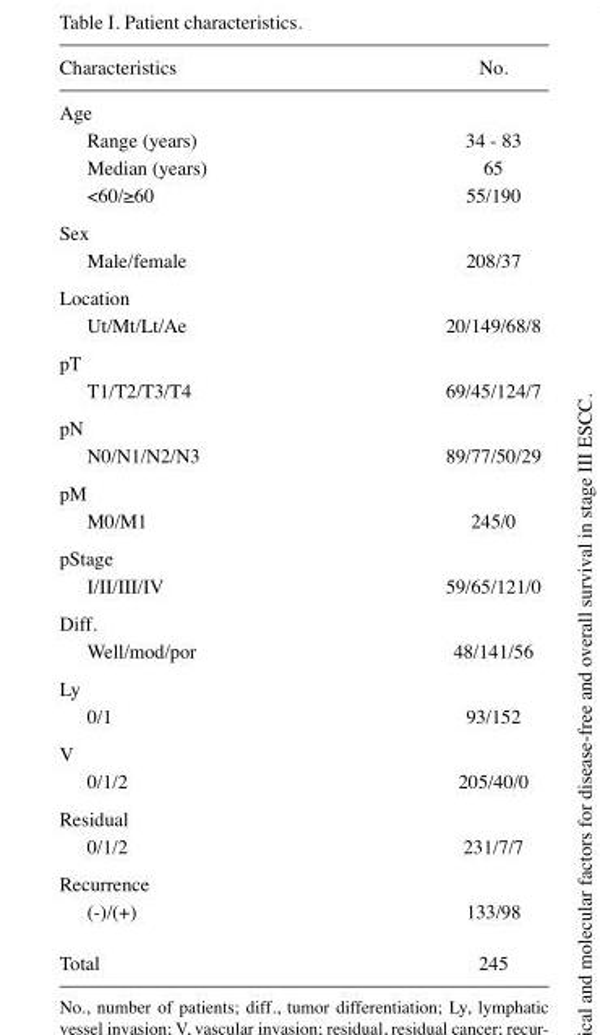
<table><thead><tr><td>Characteristics</td><td>No.</td></tr></thead><tbody><tr><td colspan="2">Age</td></tr><tr><td>Range (years)</td><td>34 - 83</td></tr><tr><td>Median (years)</td><td>65</td></tr><tr><td>&lt;60/≥60</td><td>55/190</td></tr><tr><td colspan="2">Sex</td></tr><tr><td>Male/female</td><td>208/37</td></tr><tr><td colspan="2">Location</td></tr><tr><td>Ut/Mt/Lt/Ae</td><td>20/149/68/8</td></tr><tr><td colspan="2">pT</td></tr><tr><td>T1/T2/T3/T4</td><td>69/45/124/7</td></tr><tr><td colspan="2">pN</td></tr><tr><td>N0/N1/N2/N3</td><td>89/77/50/29</td></tr><tr><td colspan="2">pM</td></tr><tr><td>M0/M1</td><td>245/0</td></tr><tr><td colspan="2">pStage</td></tr><tr><td>I/II/III/IV</td><td>59/65/121/0</td></tr><tr><td colspan="2">Diff.</td></tr><tr><td>Well/mod/por</td><td>48/141/56</td></tr><tr><td colspan="2">Ly</td></tr><tr><td>0/1</td><td>93/152</td></tr><tr><td colspan="2">V</td></tr><tr><td>0/1/2</td><td>205/40/0</td></tr><tr><td colspan="2">Residual</td></tr><tr><td>0/1/2</td><td>231/7/7</td></tr><tr><td colspan="2">Recurrence</td></tr><tr><td>(-)/(+)</td><td>133/98</td></tr><tr><td>Total</td><td>245</td></tr></tbody></table>